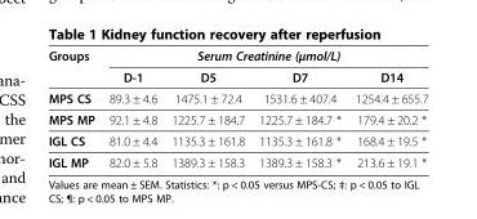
<table><thead><tr><td rowspan="2">Groups</td><td colspan="4">Serum Creatinine (μmol/L)</td></tr><tr><td>D-1</td><td>D5</td><td>D7</td><td>D14</td></tr></thead><tbody><tr><td>MPS CS</td><td>89.3 ± 4.6</td><td>1475.1 ± 72.4</td><td>1531.6 ± 407.4</td><td>1254.4 ± 655.7</td></tr><tr><td>MPS MP</td><td>92.1 ± 4.8</td><td>1225.7 ± 184.7</td><td>1225.7 ± 184.7 *</td><td>179.4 ± 20.2 *</td></tr><tr><td>IGL CS</td><td>81.0 ± 4.4</td><td>1135.3 ± 161.8</td><td>1135.3 ± 161.8 *</td><td>168.4 ± 19.5 *</td></tr><tr><td>IGL MP</td><td>82.0 ± 5.8</td><td>1389.3 ± 158.3</td><td>1389.3 ± 158.3 *</td><td>213.6 ± 19.1 *</td></tr></tbody></table>